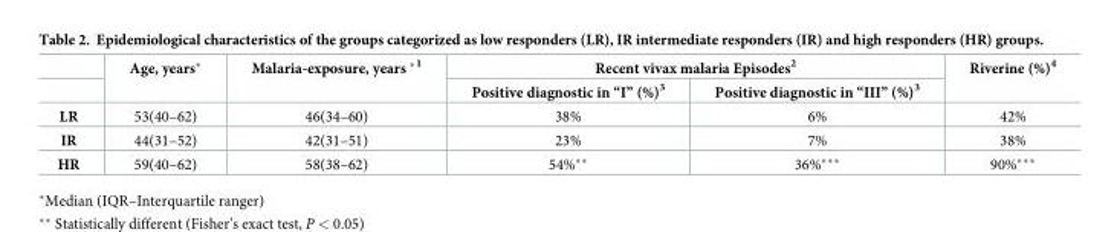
<table><thead><tr><td rowspan="2"></td><td rowspan="2">Age, years*</td><td rowspan="2">Malaria-exposure, years *<sup>1</sup></td><td colspan="2">Recent vivax malaria Episodes<sup>2</sup></td><td rowspan="2">Riverine (%)<sup>4</sup></td></tr><tr><td>Positive diagnostic in “I” (%)<sup>3</sup></td><td>Positive diagnostic in “III” (%)<sup>3</sup></td></tr></thead><tbody><tr><td>LR</td><td>53(40–62)</td><td>46(34–60)</td><td>38%</td><td>6%</td><td>42%</td></tr><tr><td>IR</td><td>44(31–52)</td><td>42(31–51)</td><td>23%</td><td>7%</td><td>38%</td></tr><tr><td>HR</td><td>59(40–62)</td><td>58(38–62)</td><td>54%**</td><td>36%***</td><td>90%***</td></tr></tbody></table>